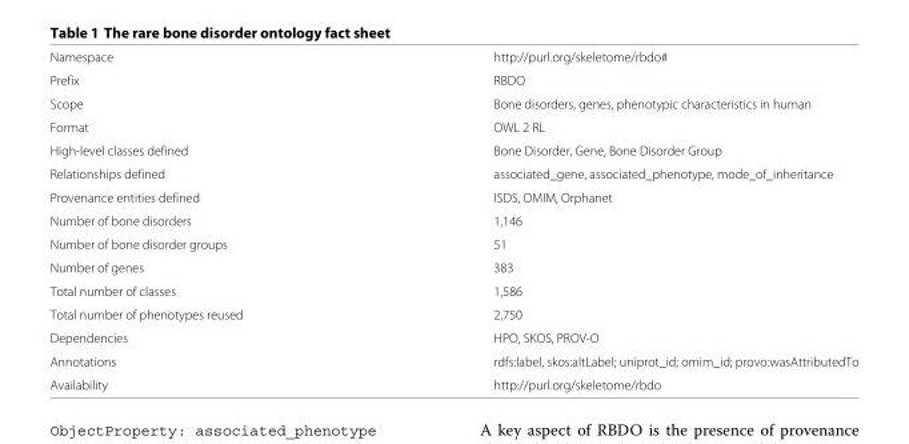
<table><tbody><tr><td>Namespace</td><td>http://purl.org/skeletome/rbdo#</td></tr><tr><td>Prefix</td><td>RBDO</td></tr><tr><td>Scope</td><td>Bone disorders, genes, phenotypic characteristics in human</td></tr><tr><td>Format</td><td>OWL 2 RL</td></tr><tr><td>High-level classes defined</td><td>Bone Disorder, Gene, Bone Disorder Group</td></tr><tr><td>Relationships defined</td><td>associated_gene, associated_phenotype, mode_of_inheritance</td></tr><tr><td>Provenance entities defined</td><td>ISDS, OMIM, Orphanet</td></tr><tr><td>Number of bone disorders</td><td>1,146</td></tr><tr><td>Number of bone disorder groups</td><td>51</td></tr><tr><td>Number of genes</td><td>383</td></tr><tr><td>Total number of classes</td><td>1,586</td></tr><tr><td>Total number of phenotypes reused</td><td>2,750</td></tr><tr><td>Dependencies</td><td>HPO, SKOS, PROV-O</td></tr><tr><td>Annotations</td><td>rdfs:label, skos:altLabel; uniprot_id; omim_id; provo:wasAttributedTo</td></tr><tr><td>Availability</td><td>http://purl.org/skeletome/rbdo</td></tr></tbody></table>